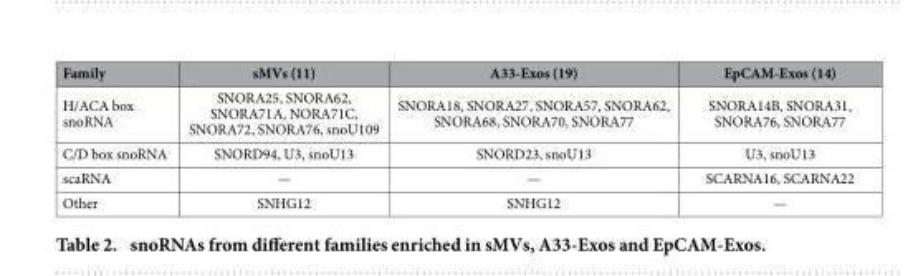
<table><thead><tr><td>Family</td><td>sMVs (11)</td><td>A33-Exos (19)</td><td>EpCAM-Exos (14)</td></tr></thead><tbody><tr><td>H/ACA box snoRNA</td><td>SNORA25, SNORA62, SNORA71A, NORA71C, SNORA72, SNORA76, snoU109</td><td>SNORA18, SNORA27, SNORA57, SNORA62, SNORA68, SNORA70, SNORA77</td><td>SNORA14B, SNORA31, SNORA76, SNORA77</td></tr><tr><td>C/D box snoRNA</td><td>SNORD94, U3, snoU13</td><td>SNORD23, snoU13</td><td>U3, snoU13</td></tr><tr><td>scaRNA</td><td>—</td><td>—</td><td>SCARNA16, SCARNA22</td></tr><tr><td>Other</td><td>SNHG12</td><td>SNHG12</td><td>—</td></tr></tbody></table>